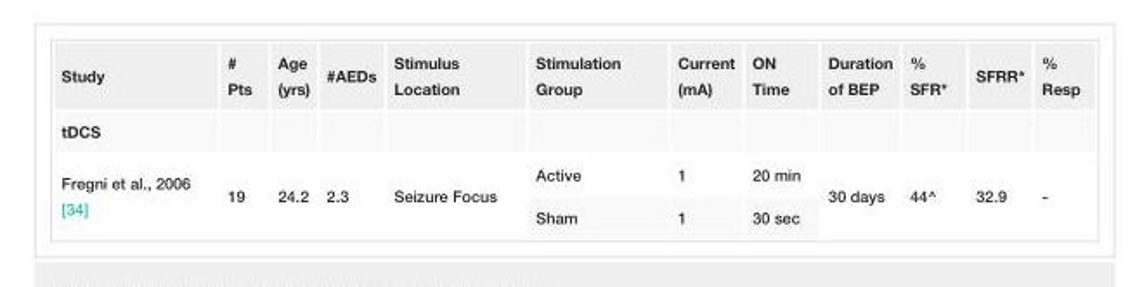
<table><tbody><tr><td>Study</td><td># Pts</td><td>Age (yrs)</td><td>#AEDs</td><td>Stimulus Location</td><td>Stimulation Group</td><td>Current (mA)</td><td>ON Time</td><td>Duration of BEP</td><td>% SFR*</td><td>SFRR*</td><td>% Resp</td></tr><tr><td colspan="12">tDCS</td></tr><tr><td rowspan="2">Fregni et al., 2006 [34]</td><td rowspan="2">19</td><td rowspan="2">24.2</td><td rowspan="2">2.3</td><td rowspan="2">Seizure Focus</td><td>Active</td><td>1</td><td>20 min</td><td rowspan="2">30 days</td><td rowspan="2">44^</td><td rowspan="2">32.9</td><td rowspan="2">-</td></tr><tr><td>Sham</td><td>1</td><td>30 sec</td></tr></tbody></table>